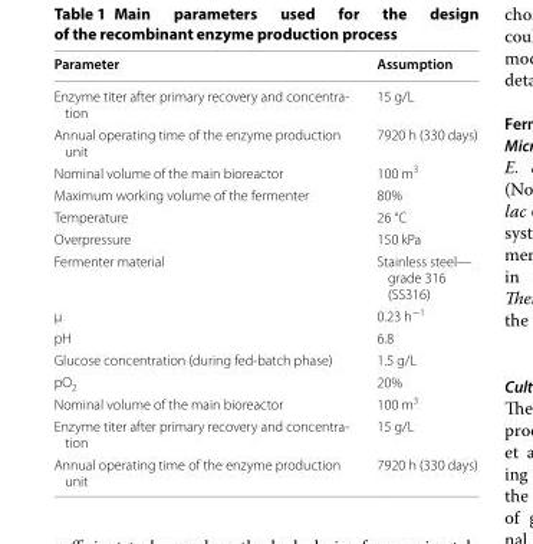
<table><thead><tr><td>Parameter</td><td>Assumption</td></tr></thead><tbody><tr><td>Enzyme titer after primary recovery and concentra- tion</td><td>15 g/L</td></tr><tr><td>Annual operating time of the enzyme production unit</td><td>7920 h (330 days)</td></tr><tr><td>Nominal volume of the main bioreactor</td><td>100 m<sup>3</sup></td></tr><tr><td>Maximum working volume of the fermenter</td><td>80%</td></tr><tr><td>Temperature</td><td>26 °C</td></tr><tr><td>Overpressure</td><td>150 kPa</td></tr><tr><td>Fermenter material</td><td>Stainless steel— grade 316 (SS316)</td></tr><tr><td>µ</td><td>0.23 h<sup>−1</sup></td></tr><tr><td>pH</td><td>6.8</td></tr><tr><td>Glucose concentration (during fed-batch phase)</td><td>1.5 g/L</td></tr><tr><td>pO<sub>2</sub></td><td>20%</td></tr><tr><td>Nominal volume of the main bioreactor</td><td>100 m<sup>3</sup></td></tr><tr><td>Enzyme titer after primary recovery and concentra- tion</td><td>15 g/L</td></tr><tr><td>Annual operating time of the enzyme production unit</td><td>7920 h (330 days)</td></tr></tbody></table>